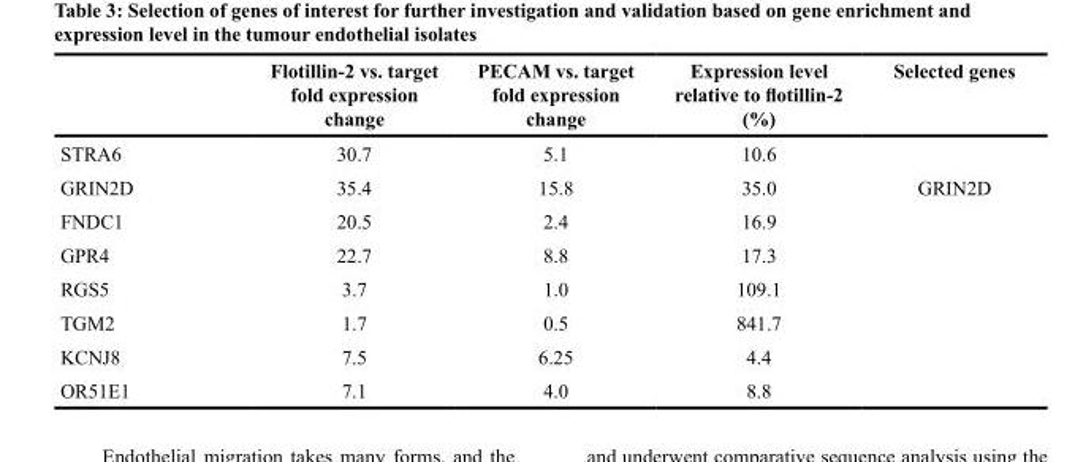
<table><thead><tr><td></td><td>Flotillin-2 vs. target fold expression change</td><td>PECAM vs. target fold expression change</td><td>Expression level relative to flotillin-2 (%)</td><td>Selected genes</td></tr></thead><tbody><tr><td>STRA6</td><td>30.7</td><td>5.1</td><td>10.6</td><td></td></tr><tr><td>GRIN2D</td><td>35.4</td><td>15.8</td><td>35.0</td><td>GRIN2D</td></tr><tr><td>FNDC1</td><td>20.5</td><td>2.4</td><td>16.9</td><td></td></tr><tr><td>GPR4</td><td>22.7</td><td>8.8</td><td>17.3</td><td></td></tr><tr><td>RGS5</td><td>3.7</td><td>1.0</td><td>109.1</td><td></td></tr><tr><td>TGM2</td><td>1.7</td><td>0.5</td><td>841.7</td><td></td></tr><tr><td>KCNJ8</td><td>7.5</td><td>6.25</td><td>4.4</td><td></td></tr><tr><td>OR51E1</td><td>7.1</td><td>4.0</td><td>8.8</td><td></td></tr></tbody></table>